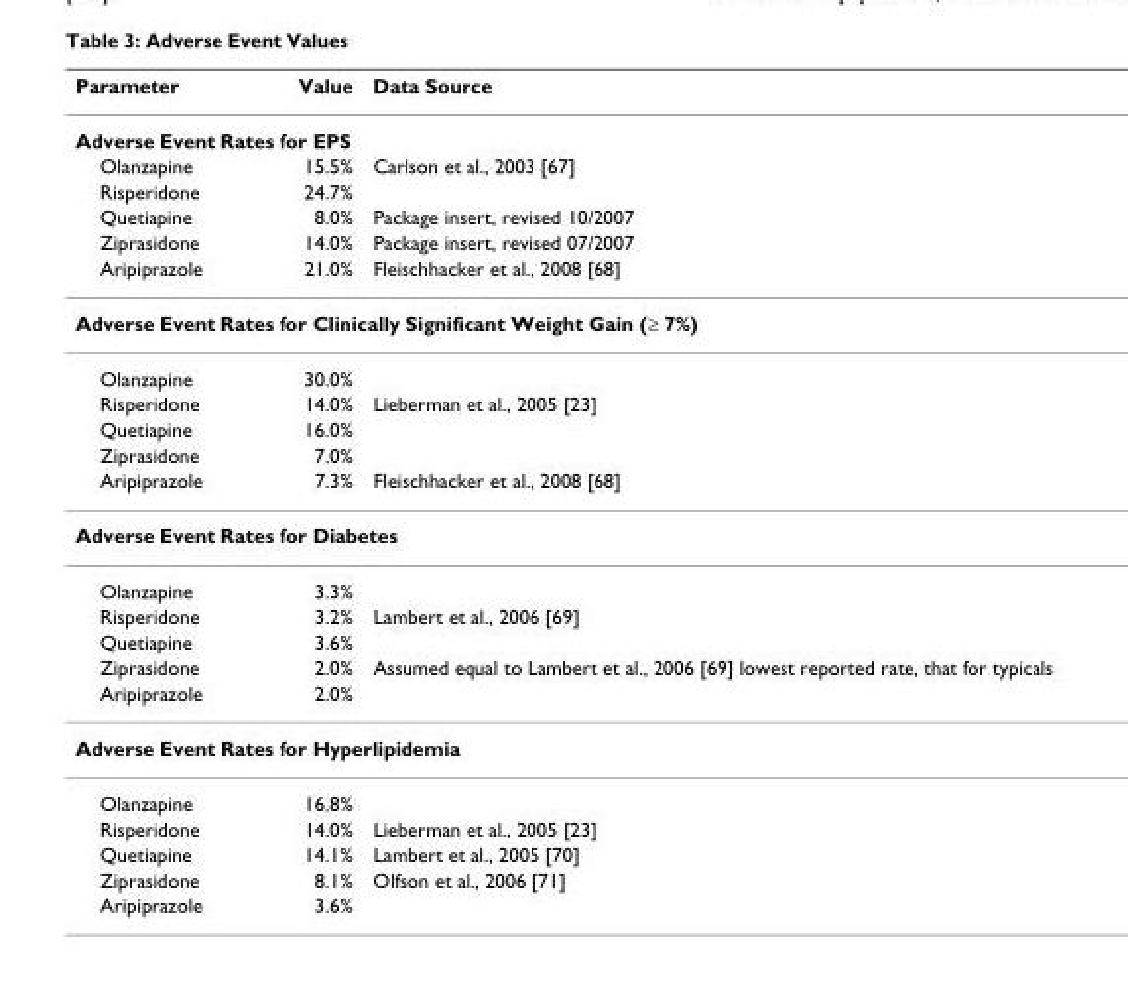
<table><thead><tr><td>Parameter</td><td>Value</td><td>Data Source</td></tr></thead><tbody><tr><td colspan="3">Adverse Event Rates for EPS</td></tr><tr><td>Olanzapine</td><td>15.5%</td><td>Carlson et al., 2003 [67]</td></tr><tr><td>Risperidone</td><td>24.7%</td><td></td></tr><tr><td>Quetiapine</td><td>8.0%</td><td>Package insert, revised 10/2007</td></tr><tr><td>Ziprasidone</td><td>14.0%</td><td>Package insert, revised 07/2007</td></tr><tr><td>Aripiprazole</td><td>21.0%</td><td>Fleischhacker et al., 2008 [68]</td></tr><tr><td colspan="3">Adverse Event Rates for Clinically Significant Weight Gain (≥ 7%)</td></tr><tr><td>Olanzapine</td><td>30.0%</td><td></td></tr><tr><td>Risperidone</td><td>14.0%</td><td>Lieberman et al., 2005 [23]</td></tr><tr><td>Quetiapine</td><td>16.0%</td><td></td></tr><tr><td>Ziprasidone</td><td>7.0%</td><td></td></tr><tr><td>Aripiprazole</td><td>7.3%</td><td>Fleischhacker et al., 2008 [68]</td></tr><tr><td colspan="3">Adverse Event Rates for Diabetes</td></tr><tr><td>Olanzapine</td><td>3.3%</td><td></td></tr><tr><td>Risperidone</td><td>3.2%</td><td>Lambert et al., 2006 [69]</td></tr><tr><td>Quetiapine</td><td>3.6%</td><td></td></tr><tr><td>Ziprasidone</td><td>2.0%</td><td>Assumed equal to Lambert et al., 2006 [69] lowest reported rate, that for typicals</td></tr><tr><td>Aripiprazole</td><td>2.0%</td><td></td></tr><tr><td colspan="3">Adverse Event Rates for Hyperlipidemia</td></tr><tr><td>Olanzapine</td><td>16.8%</td><td></td></tr><tr><td>Risperidone</td><td>14.0%</td><td>Lieberman et al., 2005 [23]</td></tr><tr><td>Quetiapine</td><td>14.1%</td><td>Lambert et al., 2005 [70]</td></tr><tr><td>Ziprasidone</td><td>8.1%</td><td>Olfson et al., 2006 [71]</td></tr><tr><td>Aripiprazole</td><td>3.6%</td><td></td></tr></tbody></table>